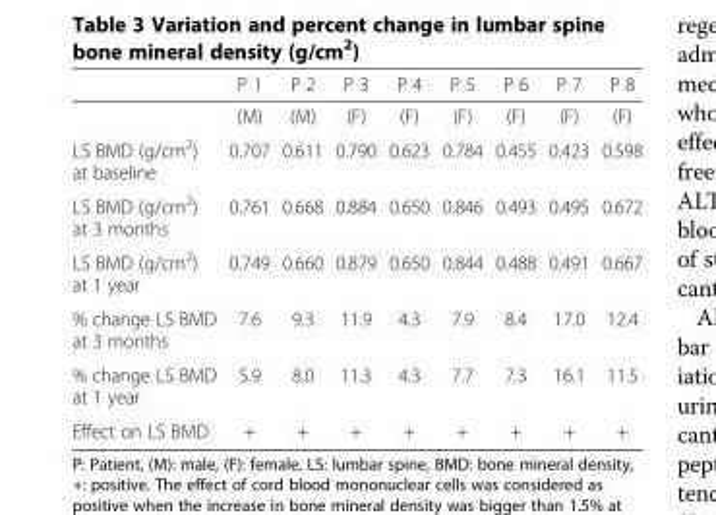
<table><thead><tr><td></td><td>P 1</td><td>P 2</td><td>P 3</td><td>P 4</td><td>P 5</td><td>P 6</td><td>P 7</td><td>P 8</td></tr></thead><tbody><tr><td></td><td>(M)</td><td>(M)</td><td>(F)</td><td>(F)</td><td>(F)</td><td>(F)</td><td>(F)</td><td>(F)</td></tr><tr><td>LS BMD (g/cm<sup>2</sup>) at baseline</td><td>0.707</td><td>0.611</td><td>0.790</td><td>0.623</td><td>0.784</td><td>0.455</td><td>0.423</td><td>0.598</td></tr><tr><td>LS BMD (g/cm<sup>2</sup>) at 3 months</td><td>0.761</td><td>0.668</td><td>0.884</td><td>0.650</td><td>0.846</td><td>0.493</td><td>0.495</td><td>0.672</td></tr><tr><td>LS BMD (g/cm<sup>2</sup>) at 1 year</td><td>0.749</td><td>0.660</td><td>0.879</td><td>0.650</td><td>0.844</td><td>0.488</td><td>0.491</td><td>0.667</td></tr><tr><td>% change LS BMD at 3 months</td><td>7.6</td><td>9.3</td><td>11.9</td><td>4.3</td><td>7.9</td><td>8.4</td><td>17.0</td><td>12.4</td></tr><tr><td>% change LS BMD at 1 year</td><td>5.9</td><td>8.0</td><td>11.3</td><td>4.3</td><td>7.7</td><td>7.3</td><td>16.1</td><td>11.5</td></tr><tr><td>Effect on LS BMD</td><td>+</td><td>+</td><td>+</td><td>+</td><td>+</td><td>+</td><td>+</td><td>+</td></tr></tbody></table>